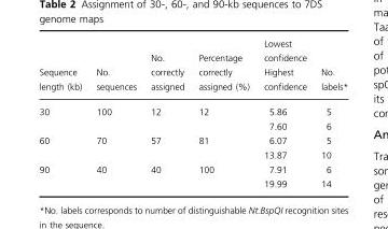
<table><thead><tr><td>Sequence length (kb)</td><td>No. sequences</td><td>No. correctly assigned</td><td>Percentage correctly assigned (%)</td><td>Lowest confidence Highest confidence</td><td>No. labels*</td></tr></thead><tbody><tr><td rowspan="2">30</td><td rowspan="2">100</td><td rowspan="2">12</td><td rowspan="2">12</td><td>5.86</td><td>5</td></tr><tr><td>7.60</td><td>6</td></tr><tr><td rowspan="2">60</td><td rowspan="2">70</td><td rowspan="2">57</td><td rowspan="2">81</td><td>6.07</td><td>5</td></tr><tr><td>13.87</td><td>10</td></tr><tr><td rowspan="2">90</td><td rowspan="2">40</td><td rowspan="2">40</td><td rowspan="2">100</td><td>7.91</td><td>6</td></tr><tr><td>19.99</td><td>14</td></tr></tbody></table>